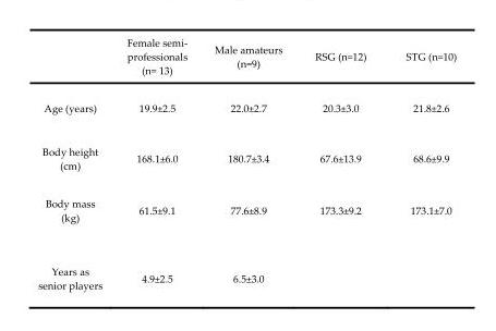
<table><thead><tr><td></td><td>Female semi- professionals (n= 13)</td><td>Male amateurs (n=9)</td><td>RSG (n=12)</td><td>STG (n=10)</td></tr></thead><tbody><tr><td>Age (years)</td><td>19.9±2.5</td><td>22.0±2.7</td><td>20.3±3.0</td><td>21.8±2.6</td></tr><tr><td>Body height (cm)</td><td>168.1±6.0</td><td>180.7±3.4</td><td>67.6±13.9</td><td>68.6±9.9</td></tr><tr><td>Body mass (kg)</td><td>61.5±9.1</td><td>77.6±8.9</td><td>173.3±9.2</td><td>173.1±7.0</td></tr><tr><td>Years as senior players</td><td>4.9±2.5</td><td>6.5±3.0</td><td></td><td></td></tr></tbody></table>